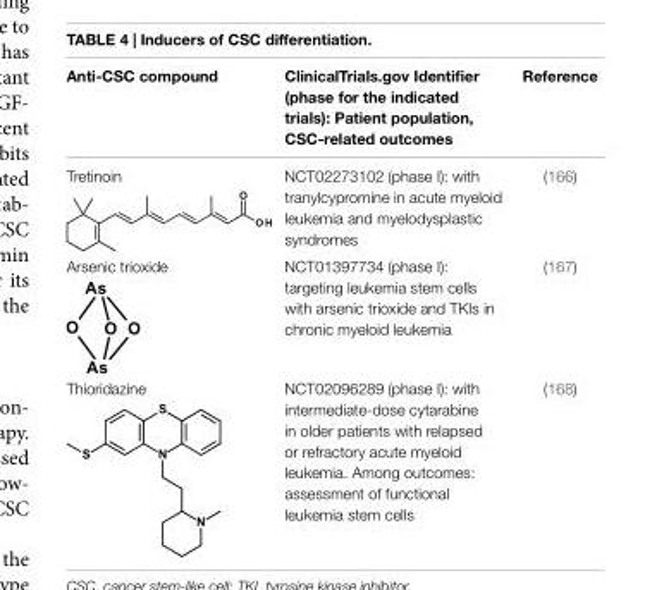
<table><thead><tr><td>Anti-CSC compound</td><td>ClinicalTrials.gov identifier (phase for the indicated trials): Patient population, CSC-related outcomes</td><td>Reference</td></tr></thead><tbody><tr><td>Tretinoin</td><td>NCT02273102 (phase I): with tranylcypromine in acute myeloid leukemia and myelodysplastic syndromes</td><td>(166)</td></tr><tr><td>Arsenic trioxide</td><td>NCT01397734 (phase I): targeting leukemia stem cells with arsenic trioxide and TKIs in chronic myeloid leukemia</td><td>(167)</td></tr><tr><td>Thioridazine</td><td>NCT02096289 (phase I): with intermediate-dose cytarabine in older patients with relapsed or refractory acute myeloid leukemia. Among outcomes: assessment of functional leukemia stem cells</td><td>(168)</td></tr></tbody></table>